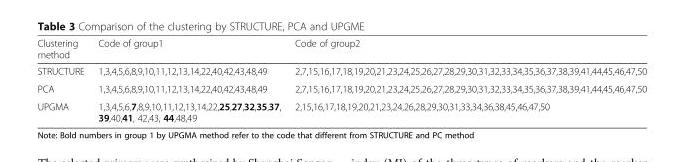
<table><thead><tr><td>Clustering method</td><td>Code of group1</td><td>Code of group2</td></tr></thead><tbody><tr><td>STRUCTURE</td><td>1,3,4,5,6,8,9,10,11,12,13,14,22,40,42,43,48,49</td><td>2,7,15,16,17,18,19,20,21,23,24,25,26,27,28,29,30,31,32,33,34,35,36,37,38,39,41,44,45,46,47,50</td></tr><tr><td>PCA</td><td>1,3,4,5,6,8,9,10,11,12,13,14,22,40,42,43,48,49</td><td>2,7,15,16,17,18,19,20,21,23,24,25,26,27,28,29,30,31,32,33,34,35,36,37,38,39,41,44,45,46,47,50</td></tr><tr><td>UPGMA</td><td>1,3,4,5,6,7,8,9,10,11,12,13,14,22,25,27,32,35,37, 39,40,41, 42,43, 44,48,49</td><td>2,15,16,17,18,19,20,21,23,24,26,28,29,30,31,33,34,36,38,45,46,47,50</td></tr></tbody></table>